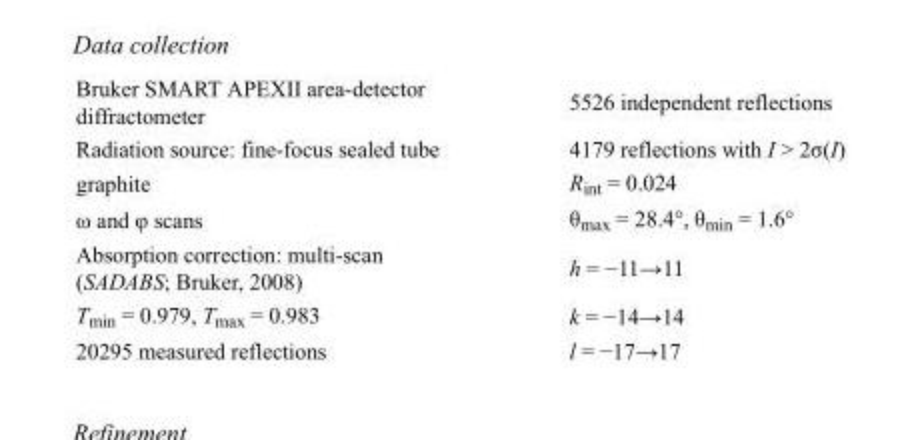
<table><tbody><tr><td>Bruker SMART APEXII area-detector diffractometer</td><td>5526 independent reflections</td></tr><tr><td>Radiation source: fine-focus sealed tube</td><td>4179 reflections with I &gt; 2σ(I)</td></tr><tr><td>graphite</td><td>R<sub>int</sub> = 0.024</td></tr><tr><td>ω and φ scans</td><td>θ<sub>max</sub> = 28.4°, θ<sub>min</sub> = 1.6°</td></tr><tr><td>Absorption correction: multi-scan (SADABS; Bruker, 2008)</td><td>h = −11→11</td></tr><tr><td>T<sub>min</sub> = 0.979, T<sub>max</sub> = 0.983</td><td>k = −14→14</td></tr><tr><td>20295 measured reflections</td><td>l = −17→17</td></tr></tbody></table>